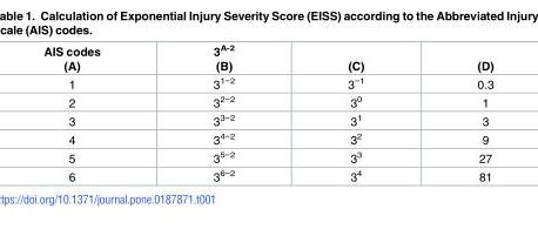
<table><thead><tr><td>AIS codes (A)</td><td>3<sup>A-2</sup> (B)</td><td>(C)</td><td>(D)</td></tr></thead><tbody><tr><td>1</td><td>3<sup>1−2</sup></td><td>3<sup>−1</sup></td><td>0.3</td></tr><tr><td>2</td><td>3<sup>2−2</sup></td><td>3<sup>0</sup></td><td>1</td></tr><tr><td>3</td><td>3<sup>3−2</sup></td><td>3<sup>1</sup></td><td>3</td></tr><tr><td>4</td><td>3<sup>4−2</sup></td><td>3<sup>2</sup></td><td>9</td></tr><tr><td>5</td><td>3<sup>5−2</sup></td><td>3<sup>3</sup></td><td>27</td></tr><tr><td>6</td><td>3<sup>6−2</sup></td><td>3<sup>4</sup></td><td>81</td></tr></tbody></table>